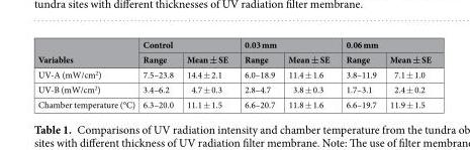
<table><thead><tr><td rowspan="2">Variables</td><td colspan="2">Control</td><td colspan="2">0.03 mm</td><td colspan="2">0.06 mm</td></tr><tr><td>Range</td><td>Mean ± SE</td><td>Range</td><td>Mean ± SE</td><td>Range</td><td>Mean ± SE</td></tr></thead><tbody><tr><td>UV-A (mW/cm<sup>2</sup>)</td><td>7.5–23.8</td><td>14.4 ± 2.1</td><td>6.0–18.9</td><td>11.4 ± 1.6</td><td>3.8–11.9</td><td>7.1 ± 1.0</td></tr><tr><td>UV-B (mW/cm<sup>2</sup>)</td><td>3.4–6.2</td><td>4.7 ± 0.3</td><td>2.8–4.7</td><td>3.8 ± 0.3</td><td>1.7–3.1</td><td>2.4 ± 0.2</td></tr><tr><td>Chamber temperature (°C)</td><td>6.3–20.0</td><td>11.1 ± 1.5</td><td>6.6–20.7</td><td>11.8 ± 1.6</td><td>6.6–19.7</td><td>11.9 ± 1.5</td></tr></tbody></table>